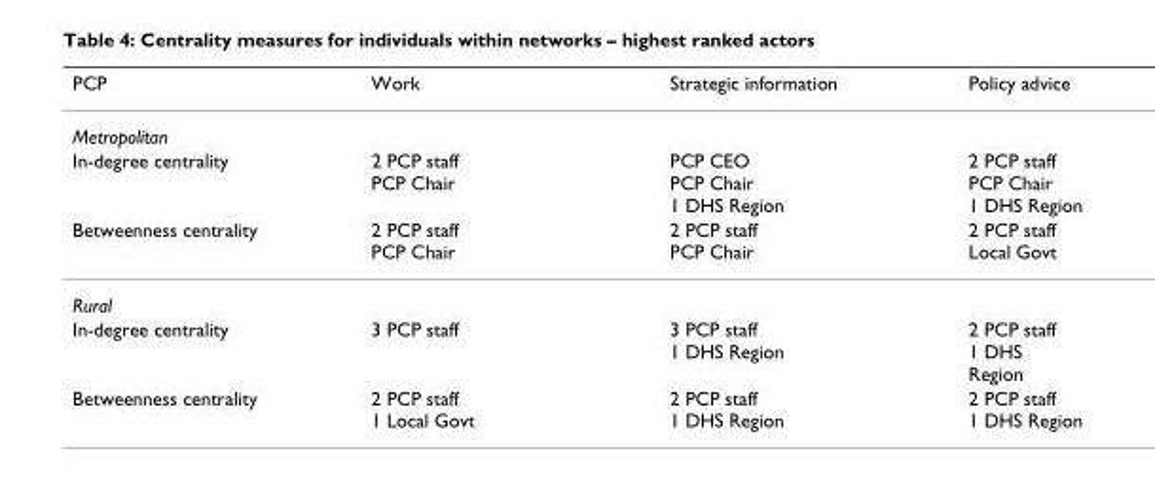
<table><thead><tr><td>PCP</td><td>Work</td><td>Strategic information</td><td>Policy advice</td></tr></thead><tbody><tr><td colspan="4">Metropolitan</td></tr><tr><td>In-degree centrality</td><td>2 PCP staff PCP Chair</td><td>PCP CEO PCP Chair 1 DHS Region</td><td>2 PCP staff PCP Chair 1 DHS Region</td></tr><tr><td>Betweenness centrality</td><td>2 PCP staff PCP Chair</td><td>2 PCP staff PCP Chair</td><td>2 PCP staff Local Govt</td></tr><tr><td colspan="4">Rural</td></tr><tr><td>In-degree centrality</td><td>3 PCP staff</td><td>3 PCP staff 1 DHS Region</td><td>2 PCP staff 1 DHS Region</td></tr><tr><td>Betweenness centrality</td><td>2 PCP staff 1 Local Govt</td><td>2 PCP staff 1 DHS Region</td><td>2 PCP staff 1 DHS Region</td></tr></tbody></table>